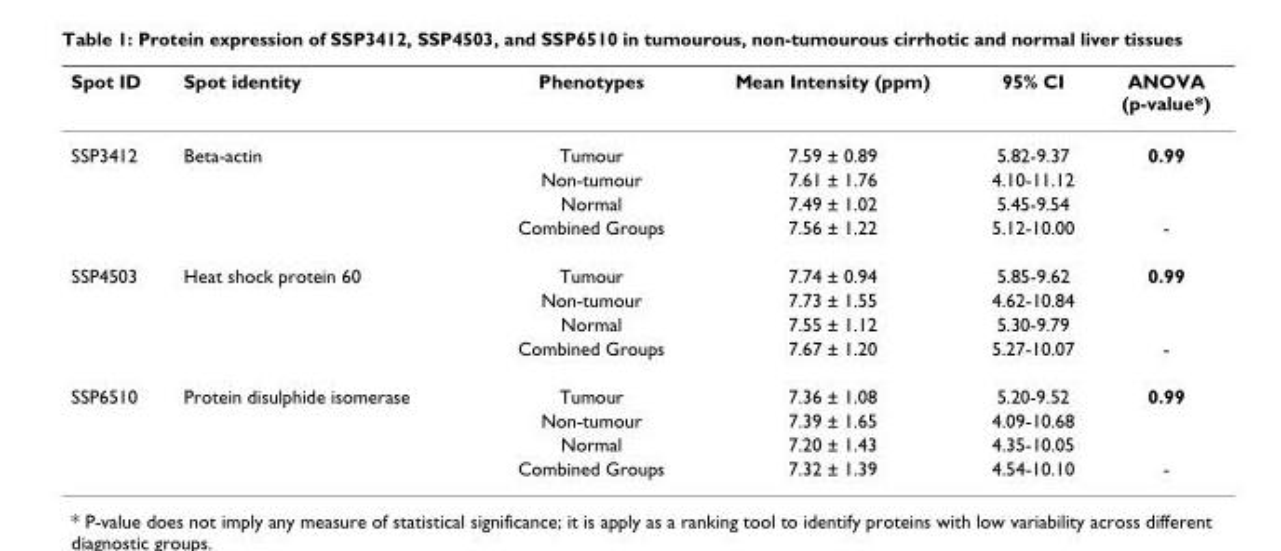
<table><thead><tr><td>Spot ID</td><td>Spot identity</td><td>Phenotypes</td><td>Mean Intensity (ppm)</td><td>95% CI</td><td>ANOVA (p-value*)</td></tr></thead><tbody><tr><td rowspan="4">SSP3412</td><td>Beta-actin</td><td>Tumour</td><td>7.59 ± 0.89</td><td>5.82-9.37</td><td>0.99</td></tr><tr><td></td><td>Non-tumour</td><td>7.61 ± 1.76</td><td>4.10-11.12</td><td></td></tr><tr><td></td><td>Normal</td><td>7.49 ± 1.02</td><td>5.45-9.54</td><td></td></tr><tr><td></td><td>Combined Groups</td><td>7.56 ± 1.22</td><td>5.12-10.00</td><td>-</td></tr><tr><td rowspan="4">SSP4503</td><td>Heat shock protein 60</td><td>Tumour</td><td>7.74 ± 0.94</td><td>5.85-9.62</td><td>0.99</td></tr><tr><td></td><td>Non-tumour</td><td>7.73 ± 1.55</td><td>4.62-10.84</td><td></td></tr><tr><td></td><td>Normal</td><td>7.55 ± 1.12</td><td>5.30-9.79</td><td></td></tr><tr><td></td><td>Combined Groups</td><td>7.67 ± 1.20</td><td>5.27-10.07</td><td>-</td></tr><tr><td rowspan="4">SSP6510</td><td>Protein disulphide isomerase</td><td>Tumour</td><td>7.36 ± 1.08</td><td>5.20-9.52</td><td>0.99</td></tr><tr><td></td><td>Non-tumour</td><td>7.39 ± 1.65</td><td>4.09-10.68</td><td></td></tr><tr><td></td><td>Normal</td><td>7.20 ± 1.43</td><td>4.35-10.05</td><td></td></tr><tr><td></td><td>Combined Groups</td><td>7.32 ± 1.39</td><td>4.54-10.10</td><td>-</td></tr></tbody></table>